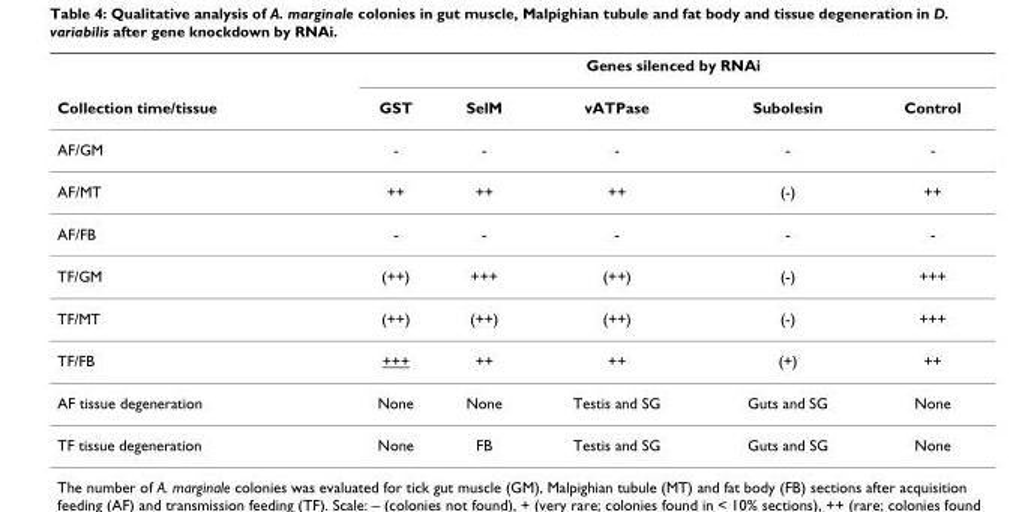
<table><thead><tr><td rowspan="2">Collection time/tissue</td><td colspan="5">Genes silenced by RNAi</td></tr><tr><td>GST</td><td>SelM</td><td>vATPase</td><td>Subolesin</td><td>Control</td></tr></thead><tbody><tr><td>AF/GM</td><td>-</td><td>-</td><td>-</td><td>-</td><td>-</td></tr><tr><td>AF/MT</td><td>++</td><td>++</td><td>++</td><td>(-)</td><td>++</td></tr><tr><td>AF/FB</td><td>-</td><td>-</td><td>-</td><td>-</td><td>-</td></tr><tr><td>TF/GM</td><td>(++)</td><td>+++</td><td>(++)</td><td>(-)</td><td>+++</td></tr><tr><td>TF/MT</td><td>(++)</td><td>(++)</td><td>(++)</td><td>(-)</td><td>+++</td></tr><tr><td>TF/FB</td><td>+++</td><td>++</td><td>++</td><td>(+)</td><td>++</td></tr><tr><td>AF tissue degeneration</td><td>None</td><td>None</td><td>Testis and SG</td><td>Guts and SG</td><td>None</td></tr><tr><td>TF tissue degeneration</td><td>None</td><td>FB</td><td>Testis and SG</td><td>Guts and SG</td><td>None</td></tr></tbody></table>